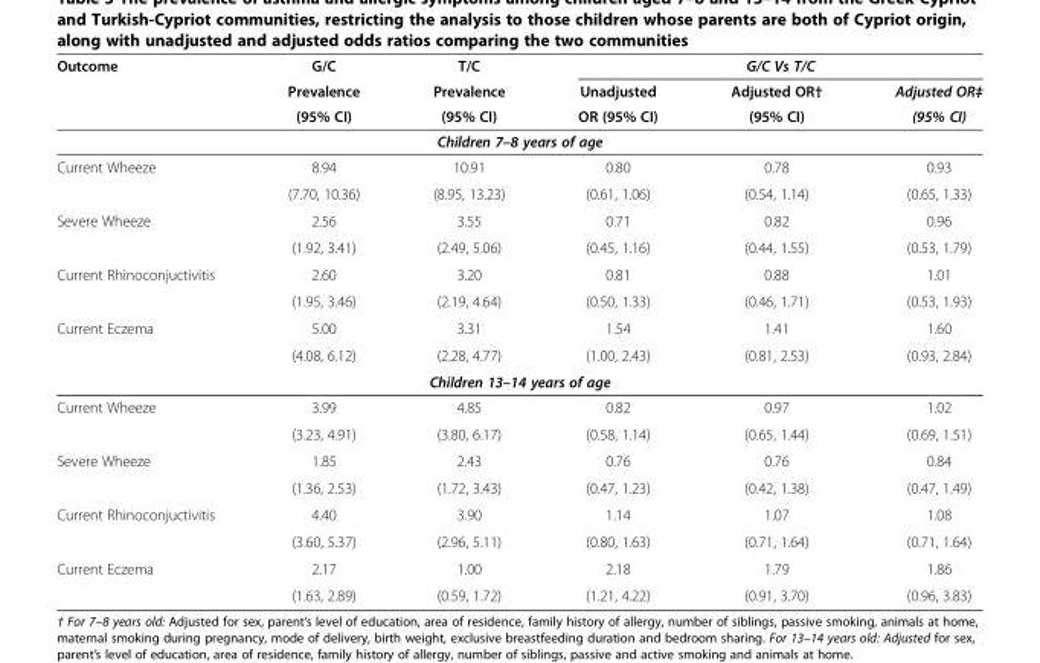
<table><thead><tr><td rowspan="3">Outcome</td><td rowspan="3">G/C Prevalence (95% CI)</td><td rowspan="3">T/C Prevalence (95% CI)</td><td colspan="3">G/C Vs T/C</td></tr><tr><td rowspan="2">Unadjusted OR (95% CI)</td><td rowspan="2">Adjusted OR† (95% CI)</td><td rowspan="2">Adjusted OR‡ (95% CI)</td></tr><tr></tr></thead><tbody><tr><td colspan="6">Children 7–8 years of age</td></tr><tr><td rowspan="2">Current Wheeze</td><td>8.94</td><td>10.91</td><td>0.80</td><td>0.78</td><td>0.93</td></tr><tr><td>(7.70, 10.36)</td><td>(8.95, 13.23)</td><td>(0.61, 1.06)</td><td>(0.54, 1.14)</td><td>(0.65, 1.33)</td></tr><tr><td rowspan="2">Severe Wheeze</td><td>2.56</td><td>3.55</td><td>0.71</td><td>0.82</td><td>0.96</td></tr><tr><td>(1.92, 3.41)</td><td>(2.49, 5.06)</td><td>(0.45, 1.16)</td><td>(0.44, 1.55)</td><td>(0.53, 1.79)</td></tr><tr><td rowspan="2">Current Rhinoconjuctivitis</td><td>2.60</td><td>3.20</td><td>0.81</td><td>0.88</td><td>1.01</td></tr><tr><td>(1.95, 3.46)</td><td>(2.19, 4.64)</td><td>(0.50, 1.33)</td><td>(0.46, 1.71)</td><td>(0.53, 1.93)</td></tr><tr><td rowspan="2">Current Eczema</td><td>5.00</td><td>3.31</td><td>1.54</td><td>1.41</td><td>1.60</td></tr><tr><td>(4.08, 6.12)</td><td>(2.28, 4.77)</td><td>(1.00, 2.43)</td><td>(0.81, 2.53)</td><td>(0.93, 2.84)</td></tr><tr><td colspan="6">Children 13–14 years of age</td></tr><tr><td rowspan="2">Current Wheeze</td><td>3.99</td><td>4.85</td><td>0.82</td><td>0.97</td><td>1.02</td></tr><tr><td>(3.23, 4.91)</td><td>(3.80, 6.17)</td><td>(0.58, 1.14)</td><td>(0.65, 1.44)</td><td>(0.69, 1.51)</td></tr><tr><td rowspan="2">Severe Wheeze</td><td>1.85</td><td>2.43</td><td>0.76</td><td>0.76</td><td>0.84</td></tr><tr><td>(1.36, 2.53)</td><td>(1.72, 3.43)</td><td>(0.47, 1.23)</td><td>(0.42, 1.38)</td><td>(0.47, 1.49)</td></tr><tr><td rowspan="2">Current Rhinoconjuctivitis</td><td>4.40</td><td>3.90</td><td>1.14</td><td>1.07</td><td>1.08</td></tr><tr><td>(3.60, 5.37)</td><td>(2.96, 5.11)</td><td>(0.80, 1.63)</td><td>(0.71, 1.64)</td><td>(0.71, 1.64)</td></tr><tr><td rowspan="2">Current Eczema</td><td>2.17</td><td>1.00</td><td>2.18</td><td>1.79</td><td>1.86</td></tr><tr><td>(1.63, 2.89)</td><td>(0.59, 1.72)</td><td>(1.21, 4.22)</td><td>(0.91, 3.70)</td><td>(0.96, 3.83)</td></tr></tbody></table>